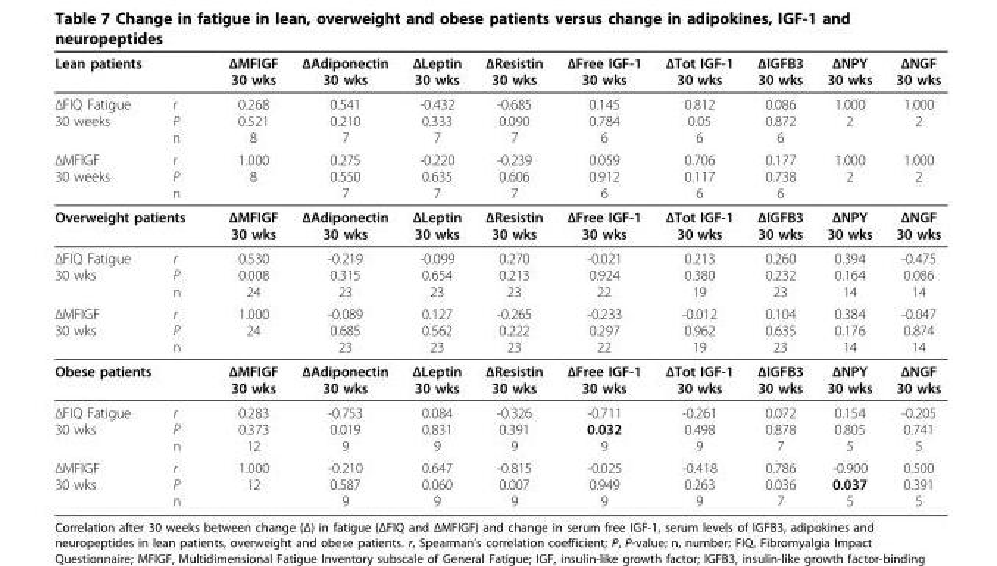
<table><thead><tr><td colspan="2">Lean patients</td><td rowspan="2">ΔMFIGF 30 wks 0.268 0.521 8</td><td rowspan="2">ΔAdiponectin 30 wks 0.541 0.210 7</td><td rowspan="2">ΔLeptin 30 wks -0.432 0.333 7</td><td rowspan="2">ΔResistin 30 wks -0.685 0.090 7</td><td rowspan="2">ΔFree IGF-1 30 wks 0.145 0.784 6</td><td rowspan="2">ΔTot IGF-1 30 wks 0.812 0.05 6</td><td rowspan="2">ΔIGFB3 30 wks 0.086 0.872 6</td><td rowspan="2">ΔNPY 30 wks 1.000 2</td><td rowspan="2">ΔNGF 30 wks 1.000 2</td></tr><tr><td>ΔFIQ Fatigue 30 weeks</td><td>r P n</td></tr></thead><tbody><tr><td>ΔMFIGF 30 weeks</td><td>r P n</td><td>1.000 8</td><td>0.275 0.550 7</td><td>-0.220 0.635 7</td><td>-0.239 0.606 7</td><td>0.059 0.912 6</td><td>0.706 0.117 6</td><td>0.177 0.738 6</td><td>1.000 2</td><td>1.000 2</td></tr><tr><td colspan="2">Overweight patients</td><td>ΔMFIGF 30 wks</td><td>ΔAdiponectin 30 wks</td><td>ΔLeptin 30 wks</td><td>ΔResistin 30 wks</td><td>ΔFree IGF-1 30 wks</td><td>ΔTot IGF-1 30 wks</td><td>ΔIGFB3 30 wks</td><td>ΔNPY 30 wks</td><td>ΔNGF 30 wks</td></tr><tr><td>ΔFIQ Fatigue 30 wks</td><td>r P n</td><td>0.530 0.008 24</td><td>-0.219 0.315 23</td><td>-0.099 0.654 23</td><td>0.270 0.213 23</td><td>-0.021 0.924 22</td><td>0.213 0.380 19</td><td>0.260 0.232 23</td><td>0.394 0.164 14</td><td>-0.475 0.086 14</td></tr><tr><td>ΔMFIGF 30 wks</td><td>r P n</td><td>1.000 24</td><td>-0.089 0.685 23</td><td>0.127 0.562 23</td><td>-0.265 0.222 23</td><td>-0.233 0.297 22</td><td>-0.012 0.962 19</td><td>0.104 0.635 23</td><td>0.384 0.176 14</td><td>-0.047 0.874 14</td></tr><tr><td colspan="2">Obese patients</td><td>ΔMFIGF 30 wks</td><td>ΔAdiponectin 30 wks</td><td>ΔLeptin 30 wks</td><td>ΔResistin 30 wks</td><td>ΔFree IGF-1 30 wks</td><td>ΔTot IGF-1 30 wks</td><td>ΔIGFB3 30 wks</td><td>ΔNPY 30 wks</td><td>ΔNGF 30 wks</td></tr><tr><td>ΔFIQ Fatigue 30 wks</td><td>r P n</td><td>0.283 0.373 12</td><td>-0.753 0.019 9</td><td>0.084 0.831 9</td><td>-0.326 0.391 9</td><td>-0.711 0.032 9</td><td>-0.261 0.498 9</td><td>0.072 0.878 7</td><td>0.154 0.805 5</td><td>-0.205 0.741 5</td></tr><tr><td>ΔMFIGF 30 wks</td><td>r P n</td><td>1.000 12</td><td>-0.210 0.587 9</td><td>0.647 0.060 9</td><td>-0.815 0.007 9</td><td>-0.025 0.949 9</td><td>-0.418 0.263 9</td><td>0.786 0.036 7</td><td>-0.900 0.037 5</td><td>0.500 0.391 5</td></tr></tbody></table>